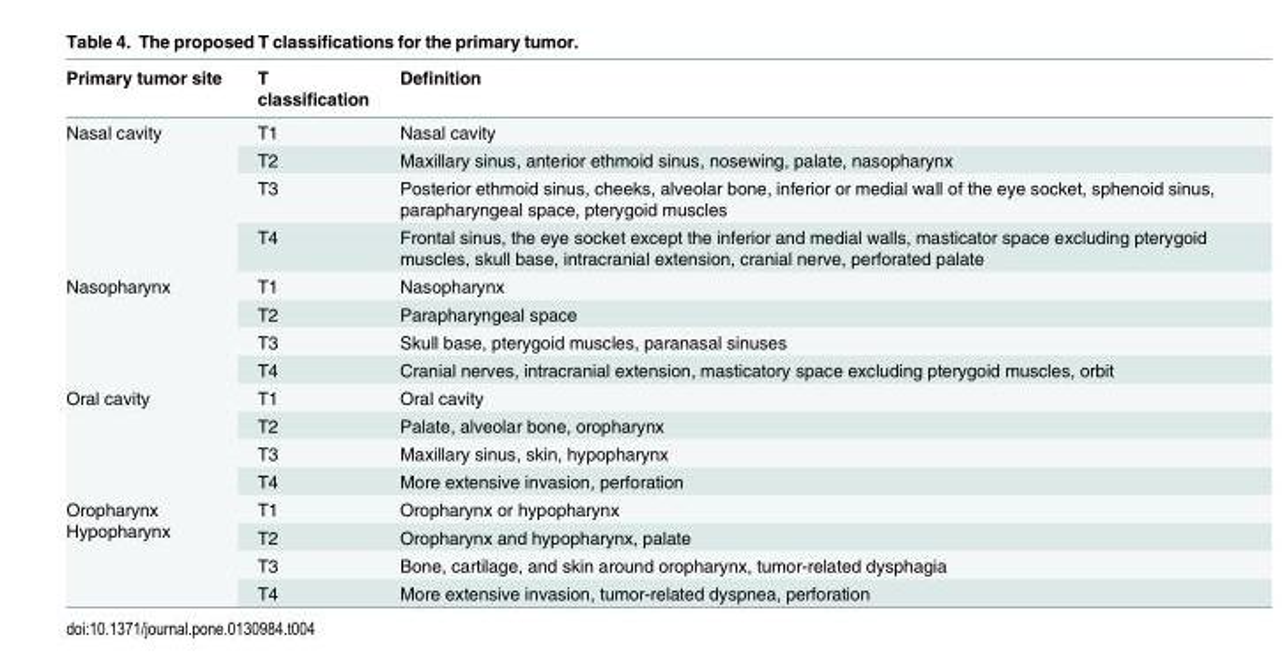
<table><thead><tr><td>Primary tumor site</td><td>T classification</td><td>Definition</td></tr></thead><tbody><tr><td rowspan="4">Nasal cavity</td><td>T1</td><td>Nasal cavity</td></tr><tr><td>T2</td><td>Maxillary sinus, anterior ethmoid sinus, nosewing, palate, nasopharynx</td></tr><tr><td>T3</td><td>Posterior ethmoid sinus, cheeks, alveolar bone, inferior or medial wall of the eye socket, sphenoid sinus, parapharyngeal space, pterygoid muscles</td></tr><tr><td>T4</td><td>Frontal sinus, the eye socket except the inferior and medial walls, masticator space excluding pterygoid muscles, skull base, intracranial extension, cranial nerve, perforated palate</td></tr><tr><td rowspan="4">Nasopharynx</td><td>T1</td><td>Nasopharynx</td></tr><tr><td>T2</td><td>Parapharyngeal space</td></tr><tr><td>T3</td><td>Skull base, pterygoid muscles, paranasal sinuses</td></tr><tr><td>T4</td><td>Cranial nerves, intracranial extension, masticatory space excluding pterygoid muscles, orbit</td></tr><tr><td rowspan="4">Oral cavity</td><td>T1</td><td>Oral cavity</td></tr><tr><td>T2</td><td>Palate, alveolar bone, oropharynx</td></tr><tr><td>T3</td><td>Maxillary sinus, skin, hypopharynx</td></tr><tr><td>T4</td><td>More extensive invasion, perforation</td></tr><tr><td rowspan="4">Oropharynx Hypopharynx</td><td>T1</td><td>Oropharynx or hypopharynx</td></tr><tr><td>T2</td><td>Oropharynx and hypopharynx, palate</td></tr><tr><td>T3</td><td>Bone, cartilage, and skin around oropharynx, tumor-related dysphagia</td></tr><tr><td>T4</td><td>More extensive invasion, tumor-related dyspnea, perforation</td></tr></tbody></table>